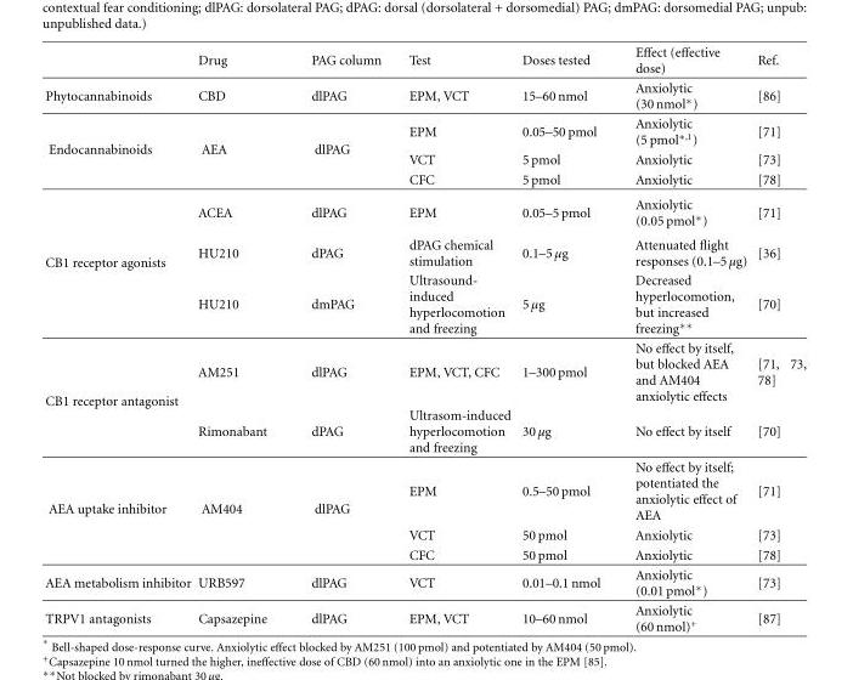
<table><thead><tr><td></td><td>Drug</td><td>PAG column</td><td>Test</td><td>Doses tested</td><td>Effect (effective dose)</td><td>Ref.</td></tr></thead><tbody><tr><td>Phytocannabinoids</td><td>CBD</td><td>dlPAG</td><td>EPM, VCT</td><td>15–60 nmol</td><td>Anxiolytic (30 nmol∗)</td><td>[86]</td></tr><tr><td rowspan="3">Endocannabinoids</td><td rowspan="3">AEA</td><td rowspan="3">dlPAG</td><td>EPM</td><td>0.05–50 pmol</td><td>Anxiolytic (5 pmol∗,1)</td><td>[71]</td></tr><tr><td>VCT</td><td>5 pmol</td><td>Anxiolytic</td><td>[73]</td></tr><tr><td>CFC</td><td>5 pmol</td><td>Anxiolytic</td><td>[78]</td></tr><tr><td rowspan="3">CB1 receptor agonists</td><td>ACEA</td><td>dlPAG</td><td>EPM</td><td>0.05–5 pmol</td><td>Anxiolytic (0.05 pmol∗)</td><td>[71]</td></tr><tr><td>HU210</td><td>dPAG</td><td>dPAG chemical stimulation</td><td>0.1–5 μg</td><td>Attenuated flight responses (0.1–5 μg)</td><td>[36]</td></tr><tr><td>HU210</td><td>dmPAG</td><td>Ultrasound- induced hyperlocomotion and freezing</td><td>5 μg</td><td>Decreased hyperlocomotion, but increased freezing∗∗</td><td>[70]</td></tr><tr><td rowspan="2">CB1 receptor antagonist</td><td>AM251</td><td>dlPAG</td><td>EPM, VCT, CFC</td><td>1–300 pmol</td><td>No effect by itself, but blocked AEA and AM404 anxiolytic effects</td><td>[71, 73, 78]</td></tr><tr><td>Rimonabant</td><td>dPAG</td><td>Ultrasom-induced hyperlocomotion and freezing</td><td>30 μg</td><td>No effect by itself</td><td>[70]</td></tr><tr><td rowspan="3">AEA uptake inhibitor</td><td rowspan="3">AM404</td><td rowspan="3">dlPAG</td><td>EPM</td><td>0.5–50 pmol</td><td>No effect by itself; potentiated the anxiolytic effect of AEA</td><td>[71]</td></tr><tr><td>VCT</td><td>50 pmol</td><td>Anxiolytic</td><td>[73]</td></tr><tr><td>CFC</td><td>50 pmol</td><td>Anxiolytic</td><td>[78]</td></tr><tr><td>AEA metabolism inhibitor</td><td>URB597</td><td>dlPAG</td><td>VCT</td><td>0.01–0.1 nmol</td><td>Anxiolytic (0.01 pmol∗)</td><td>[73]</td></tr><tr><td>TRPV1 antagonists</td><td>Capsazepine</td><td>dlPAG</td><td>EPM, VCT</td><td>10–60 nmol</td><td>Anxiolytic (60 nmol)<sup>+</sup></td><td>[87]</td></tr></tbody></table>